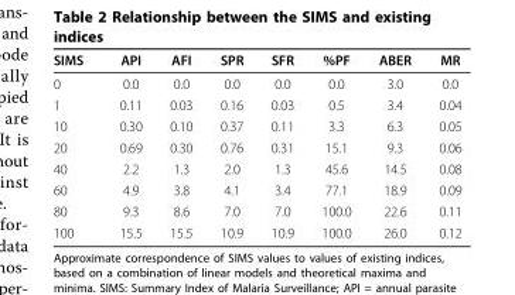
<table><thead><tr><td>SIMS</td><td>API</td><td>AFI</td><td>SPR</td><td>SFR</td><td>%PF</td><td>ABER</td><td>MR</td></tr></thead><tbody><tr><td>0</td><td>0.0</td><td>0.0</td><td>0.0</td><td>0.0</td><td>0.0</td><td>3.0</td><td>0.0</td></tr><tr><td>1</td><td>0.11</td><td>0.03</td><td>0.16</td><td>0.03</td><td>0.5</td><td>3.4</td><td>0.04</td></tr><tr><td>10</td><td>0.30</td><td>0.10</td><td>0.37</td><td>0.11</td><td>3.3</td><td>6.3</td><td>0.05</td></tr><tr><td>20</td><td>0.69</td><td>0.30</td><td>0.76</td><td>0.31</td><td>15.1</td><td>9.3</td><td>0.06</td></tr><tr><td>40</td><td>2.2</td><td>1.3</td><td>2.0</td><td>1.3</td><td>45.6</td><td>14.5</td><td>0.08</td></tr><tr><td>60</td><td>4.9</td><td>3.8</td><td>4.1</td><td>3.4</td><td>77.1</td><td>18.9</td><td>0.09</td></tr><tr><td>80</td><td>9.3</td><td>8.6</td><td>7.0</td><td>7.0</td><td>100.0</td><td>22.6</td><td>0.11</td></tr><tr><td>100</td><td>15.5</td><td>15.5</td><td>10.9</td><td>10.9</td><td>100.0</td><td>26.0</td><td>0.12</td></tr></tbody></table>